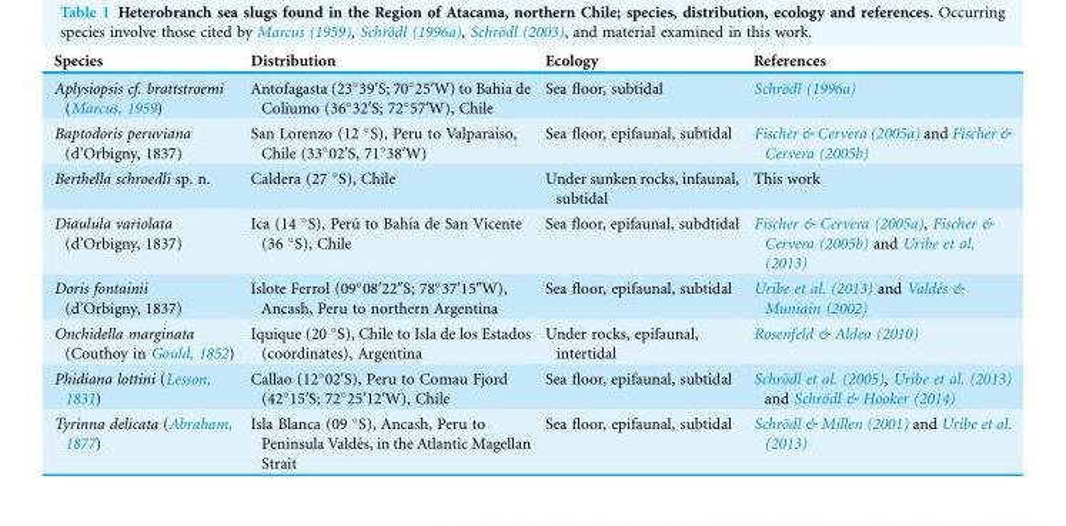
<table><thead><tr><td>Species</td><td>Distribution</td><td>Ecology</td><td>References</td></tr></thead><tbody><tr><td>Aplysiopsis cf. brattstroemi (Marcus, 1959)</td><td>Antofagasta (23°39′S; 70°25′W) to Bahia de Coliumo (36°32′S; 72°57′W), Chile</td><td>Sea floor, subtidal</td><td>Schro¨dl (1996a)</td></tr><tr><td>Baptodoris peruviana (d’Orbigny, 1837)</td><td>San Lorenzo (12 °S), Peru to Valparaiso, Chile (33°02′S, 71°38′W)</td><td>Sea floor, epifaunal, subtidal</td><td>Fischer &amp; Cervera (2005a) and Fischer &amp; Cervera (2005b)</td></tr><tr><td>Berthella schroedli sp. n.</td><td>Caldera (27 °S), Chile</td><td>Under sunken rocks, infaunal, subtidal</td><td>This work</td></tr><tr><td>Diaulula variolata (d’Orbigny, 1837)</td><td>Ica (14 �S), Peru´ to Bahı´a de San Vicente (36 �S), Chile</td><td>Sea floor, epifaunal, subdtidal</td><td>Fischer &amp; Cervera (2005a), Fischer &amp; Cervera (2005b) and Uribe et al. (2013)</td></tr><tr><td>Doris fontainii (d’Orbigny, 1837)</td><td>Islote Ferrol (09°08′22″S; 78°37′15″W), Ancash, Peru to northern Argentina</td><td>Sea floor, epifaunal, subtidal</td><td>Uribe et al. (2013) and Valde´s &amp; Muniaı´n (2002)</td></tr><tr><td>Onchidella marginata (Couthoy in Gould, 1852)</td><td>Iquique (20 °S), Chile to Isla de los Estados (coordinates), Argentina</td><td>Under rocks, epifaunal, intertidal</td><td>Rosenfeld &amp; Aldea (2010)</td></tr><tr><td>Phidiana lottini (Lesson, 1831)</td><td>Callao (12°02′S), Peru to Comau Fjord (42°15′S; 72°25′12′W), Chile</td><td>Sea floor, epifaunal, subtidal</td><td>Schro¨dl et al. (2005), Uribe et al. (2013) and Schro¨dl &amp; Hooker (2014)</td></tr><tr><td>Tyrinna delicata (Abraham, 1877)</td><td>Isla Blanca (09 �S), Ancash, Peru to Peninsula Valde´s, in the Atlantic Magellan Strait</td><td>Sea floor, epifaunal, subtidal</td><td>Schro¨dl &amp; Millen (2001) and Uribe et al. (2013)</td></tr></tbody></table>